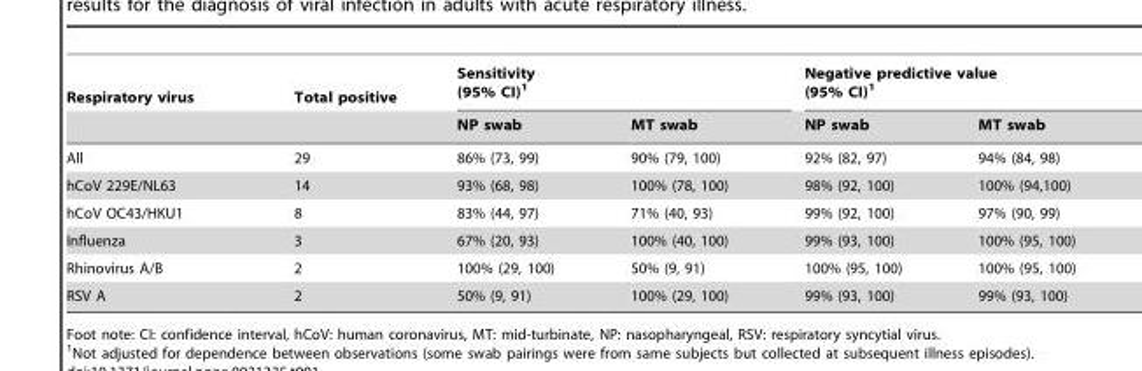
<table><thead><tr><td rowspan="2">Respiratory virus</td><td rowspan="2">Total positive</td><td colspan="2">Sensitivity (95% CI)<sup>1</sup></td><td colspan="2">Negative predictive value (95% CI)<sup>1</sup></td></tr><tr><td>NP swab</td><td>MT swab</td><td>NP swab</td><td>MT swab</td></tr></thead><tbody><tr><td>All</td><td>29</td><td>86% (73, 99)</td><td>90% (79, 100)</td><td>92% (82, 97)</td><td>94% (84, 98)</td></tr><tr><td>hCoV 229E/NL63</td><td>14</td><td>93% (68, 98)</td><td>100% (78, 100)</td><td>98% (92, 100)</td><td>100% (94,100)</td></tr><tr><td>hCoV OC43/HKU1</td><td>8</td><td>83% (44, 97)</td><td>71% (40, 93)</td><td>99% (92, 100)</td><td>97% (90, 99)</td></tr><tr><td>Influenza</td><td>3</td><td>67% (20, 93)</td><td>100% (40, 100)</td><td>99% (93, 100)</td><td>100% (95, 100)</td></tr><tr><td>Rhinovirus A/B</td><td>2</td><td>100% (29, 100)</td><td>50% (9, 91)</td><td>100% (95, 100)</td><td>100% (95, 100)</td></tr><tr><td>RSV A</td><td>2</td><td>50% (9, 91)</td><td>100% (29, 100)</td><td>99% (93, 100)</td><td>99% (93, 100)</td></tr></tbody></table>